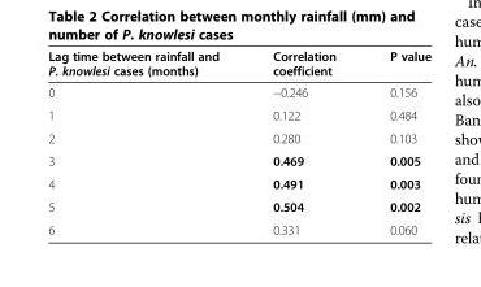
<table><thead><tr><td>Lag time between rainfall and P. knowlesi cases (months)</td><td>Correlation coefficient</td><td>P value</td></tr></thead><tbody><tr><td>0</td><td>−0.246</td><td>0.156</td></tr><tr><td>1</td><td>0.122</td><td>0.484</td></tr><tr><td>2</td><td>0.280</td><td>0.103</td></tr><tr><td>3</td><td>0.469</td><td>0.005</td></tr><tr><td>4</td><td>0.491</td><td>0.003</td></tr><tr><td>5</td><td>0.504</td><td>0.002</td></tr><tr><td>6</td><td>0.331</td><td>0.060</td></tr></tbody></table>